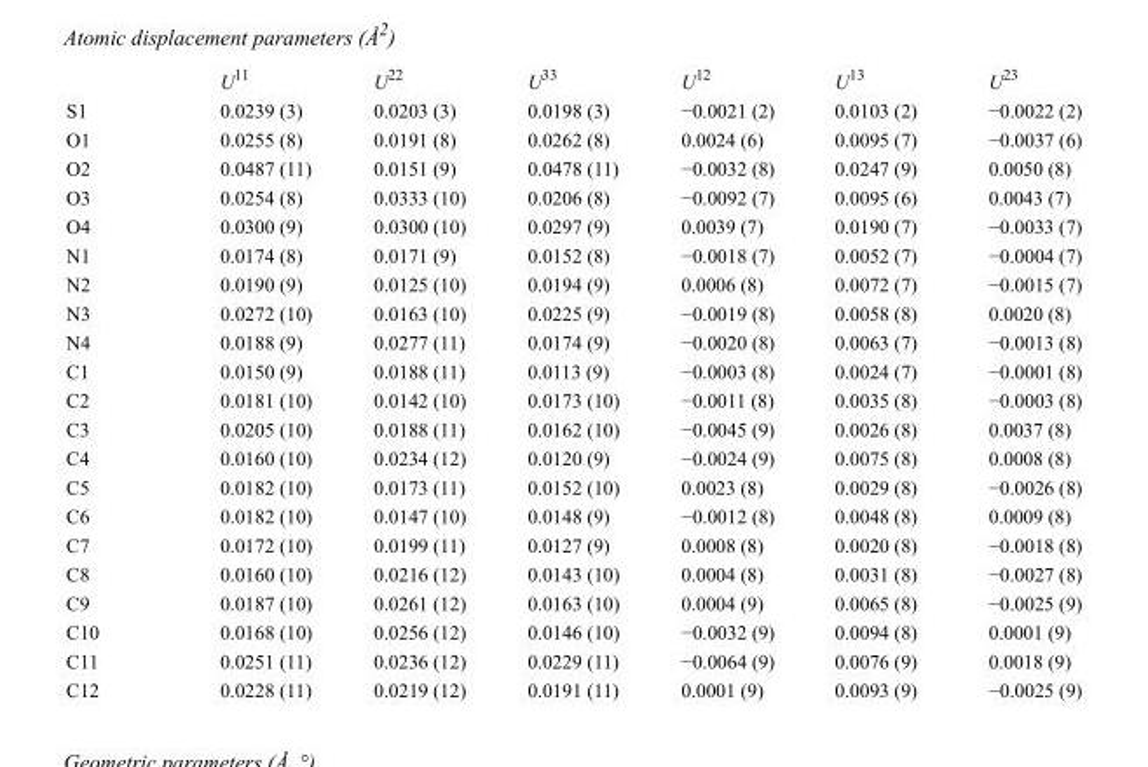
<table><thead><tr><td></td><td>U<sup>11</sup></td><td>U<sup>22</sup></td><td>U<sup>33</sup></td><td>U<sup>12</sup></td><td>U<sup>13</sup></td><td>U<sup>23</sup></td></tr></thead><tbody><tr><td>S1</td><td>0.0239 (3)</td><td>0.0203 (3)</td><td>0.0198 (3)</td><td>−0.0021 (2)</td><td>0.0103 (2)</td><td>−0.0022 (2)</td></tr><tr><td>O1</td><td>0.0255 (8)</td><td>0.0191 (8)</td><td>0.0262 (8)</td><td>0.0024 (6)</td><td>0.0095 (7)</td><td>−0.0037 (6)</td></tr><tr><td>O2</td><td>0.0487 (11)</td><td>0.0151 (9)</td><td>0.0478 (11)</td><td>−0.0032 (8)</td><td>0.0247 (9)</td><td>0.0050 (8)</td></tr><tr><td>O3</td><td>0.0254 (8)</td><td>0.0333 (10)</td><td>0.0206 (8)</td><td>−0.0092 (7)</td><td>0.0095 (6)</td><td>0.0043 (7)</td></tr><tr><td>O4</td><td>0.0300 (9)</td><td>0.0300 (10)</td><td>0.0297 (9)</td><td>0.0039 (7)</td><td>0.0190 (7)</td><td>−0.0033 (7)</td></tr><tr><td>N1</td><td>0.0174 (8)</td><td>0.0171 (9)</td><td>0.0152 (8)</td><td>−0.0018 (7)</td><td>0.0052 (7)</td><td>−0.0004 (7)</td></tr><tr><td>N2</td><td>0.0190 (9)</td><td>0.0125 (10)</td><td>0.0194 (9)</td><td>0.0006 (8)</td><td>0.0072 (7)</td><td>−0.0015 (7)</td></tr><tr><td>N3</td><td>0.0272 (10)</td><td>0.0163 (10)</td><td>0.0225 (9)</td><td>−0.0019 (8)</td><td>0.0058 (8)</td><td>0.0020 (8)</td></tr><tr><td>N4</td><td>0.0188 (9)</td><td>0.0277 (11)</td><td>0.0174 (9)</td><td>−0.0020 (8)</td><td>0.0063 (7)</td><td>−0.0013 (8)</td></tr><tr><td>C1</td><td>0.0150 (9)</td><td>0.0188 (11)</td><td>0.0113 (9)</td><td>−0.0003 (8)</td><td>0.0024 (7)</td><td>−0.0001 (8)</td></tr><tr><td>C2</td><td>0.0181 (10)</td><td>0.0142 (10)</td><td>0.0173 (10)</td><td>−0.0011 (8)</td><td>0.0035 (8)</td><td>−0.0003 (8)</td></tr><tr><td>C3</td><td>0.0205 (10)</td><td>0.0188 (11)</td><td>0.0162 (10)</td><td>−0.0045 (9)</td><td>0.0026 (8)</td><td>0.0037 (8)</td></tr><tr><td>C4</td><td>0.0160 (10)</td><td>0.0234 (12)</td><td>0.0120 (9)</td><td>−0.0024 (9)</td><td>0.0075 (8)</td><td>0.0008 (8)</td></tr><tr><td>C5</td><td>0.0182 (10)</td><td>0.0173 (11)</td><td>0.0152 (10)</td><td>0.0023 (8)</td><td>0.0029 (8)</td><td>−0.0026 (8)</td></tr><tr><td>C6</td><td>0.0182 (10)</td><td>0.0147 (10)</td><td>0.0148 (9)</td><td>−0.0012 (8)</td><td>0.0048 (8)</td><td>0.0009 (8)</td></tr><tr><td>C7</td><td>0.0172 (10)</td><td>0.0199 (11)</td><td>0.0127 (9)</td><td>0.0008 (8)</td><td>0.0020 (8)</td><td>−0.0018 (8)</td></tr><tr><td>C8</td><td>0.0160 (10)</td><td>0.0216 (12)</td><td>0.0143 (10)</td><td>0.0004 (8)</td><td>0.0031 (8)</td><td>−0.0027 (8)</td></tr><tr><td>C9</td><td>0.0187 (10)</td><td>0.0261 (12)</td><td>0.0163 (10)</td><td>0.0004 (9)</td><td>0.0065 (8)</td><td>−0.0025 (9)</td></tr><tr><td>C10</td><td>0.0168 (10)</td><td>0.0256 (12)</td><td>0.0146 (10)</td><td>−0.0032 (9)</td><td>0.0094 (8)</td><td>0.0001 (9)</td></tr><tr><td>C11</td><td>0.0251 (11)</td><td>0.0236 (12)</td><td>0.0229 (11)</td><td>−0.0064 (9)</td><td>0.0076 (9)</td><td>0.0018 (9)</td></tr><tr><td>C12</td><td>0.0228 (11)</td><td>0.0219 (12)</td><td>0.0191 (11)</td><td>0.0001 (9)</td><td>0.0093 (9)</td><td>−0.0025 (9)</td></tr></tbody></table>